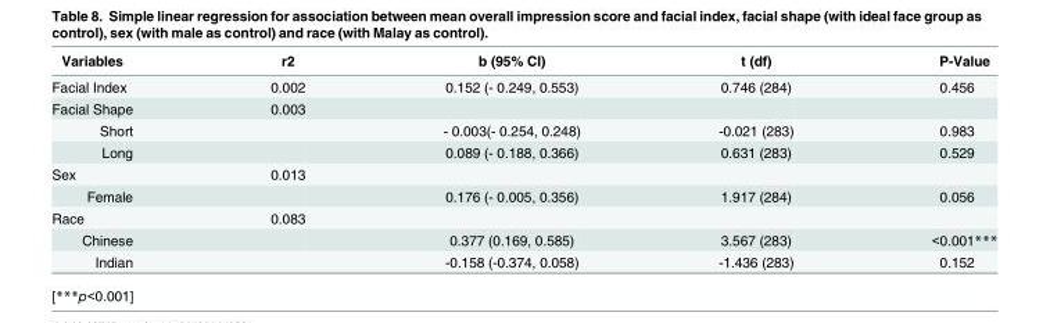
<table><thead><tr><td>Variables</td><td>r2</td><td>b (95% CI)</td><td>t (df)</td><td>P-Value</td></tr></thead><tbody><tr><td>Facial Index</td><td>0.002</td><td>0.152 (- 0.249, 0.553)</td><td>0.746 (284)</td><td>0.456</td></tr><tr><td>Facial Shape</td><td>0.003</td><td></td><td></td><td></td></tr><tr><td>Short</td><td></td><td>- 0.003(- 0.254, 0.248)</td><td>-0.021 (283)</td><td>0.983</td></tr><tr><td>Long</td><td></td><td>0.089 (- 0.188, 0.366)</td><td>0.631 (283)</td><td>0.529</td></tr><tr><td>Sex</td><td>0.013</td><td></td><td></td><td></td></tr><tr><td>Female</td><td></td><td>0.176 (- 0.005, 0.356)</td><td>1.917 (284)</td><td>0.056</td></tr><tr><td>Race</td><td>0.083</td><td></td><td></td><td></td></tr><tr><td>Chinese</td><td></td><td>0.377 (0.169, 0.585)</td><td>3.567 (283)</td><td>&lt;0.001***</td></tr><tr><td>Indian</td><td></td><td>-0.158 (-0.374, 0.058)</td><td>-1.436 (283)</td><td>0.152</td></tr></tbody></table>